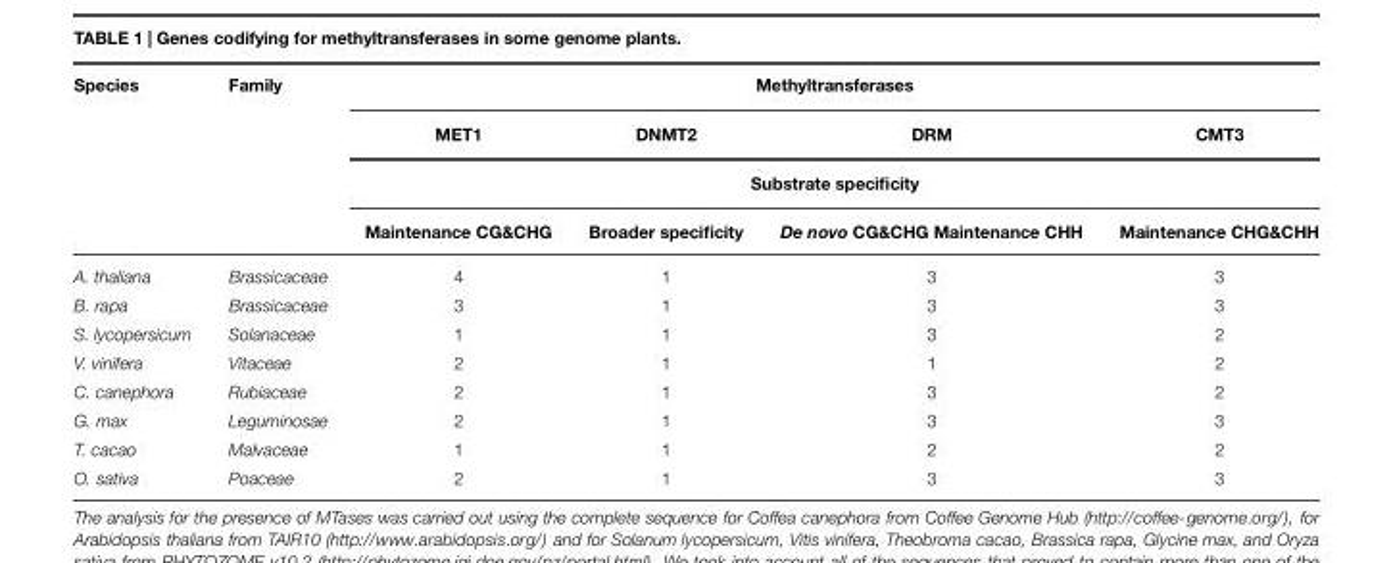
<table><thead><tr><td rowspan="4">Species</td><td rowspan="4">Family</td><td colspan="4">Methyltransferases</td></tr><tr><td>MET1</td><td>DNMT2</td><td>DRM</td><td>CMT3</td></tr><tr><td colspan="4">Substrate specificity</td></tr><tr><td>Maintenance CG&amp;CHG</td><td>Broader specificity</td><td>De novo CG&amp;CHG Maintenance CHH</td><td>Maintenance CHG&amp;CHH</td></tr></thead><tbody><tr><td>A. thaliana</td><td>Brassicaceae</td><td>4</td><td>1</td><td>3</td><td>3</td></tr><tr><td>B. rapa</td><td>Brassicaceae</td><td>3</td><td>1</td><td>3</td><td>3</td></tr><tr><td>S. lycopersicum</td><td>Solanaceae</td><td>1</td><td>1</td><td>3</td><td>2</td></tr><tr><td>V. vinifera</td><td>Vitaceae</td><td>2</td><td>1</td><td>1</td><td>2</td></tr><tr><td>C. canephora</td><td>Rubiaceae</td><td>2</td><td>1</td><td>3</td><td>2</td></tr><tr><td>G. max</td><td>Leguminosae</td><td>2</td><td>1</td><td>3</td><td>3</td></tr><tr><td>T. cacao</td><td>Malvaceae</td><td>1</td><td>1</td><td>2</td><td>2</td></tr><tr><td>O. sativa</td><td>Poaceae</td><td>2</td><td>1</td><td>3</td><td>3</td></tr></tbody></table>